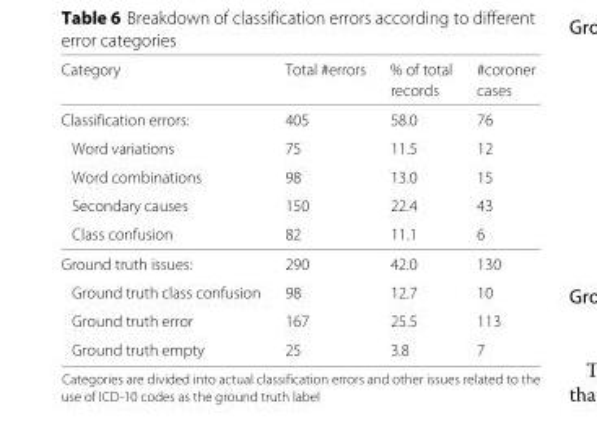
<table><thead><tr><td rowspan="2">Category</td><td rowspan="2">Total #errors</td><td rowspan="2">% of total records</td><td rowspan="2">#coroner cases</td></tr><tr></tr></thead><tbody><tr><td>Classification errors:</td><td>405</td><td>58.0</td><td>76</td></tr><tr><td>Word variations</td><td>75</td><td>11.5</td><td>12</td></tr><tr><td>Word combinations</td><td>98</td><td>13.0</td><td>15</td></tr><tr><td>Secondary causes</td><td>150</td><td>22.4</td><td>43</td></tr><tr><td>Class confusion</td><td>82</td><td>11.1</td><td>6</td></tr><tr><td>Ground truth issues:</td><td>290</td><td>42.0</td><td>130</td></tr><tr><td>Ground truth class confusion</td><td>98</td><td>12.7</td><td>10</td></tr><tr><td>Ground truth error</td><td>167</td><td>25.5</td><td>113</td></tr><tr><td>Ground truth empty</td><td>25</td><td>3.8</td><td>7</td></tr></tbody></table>